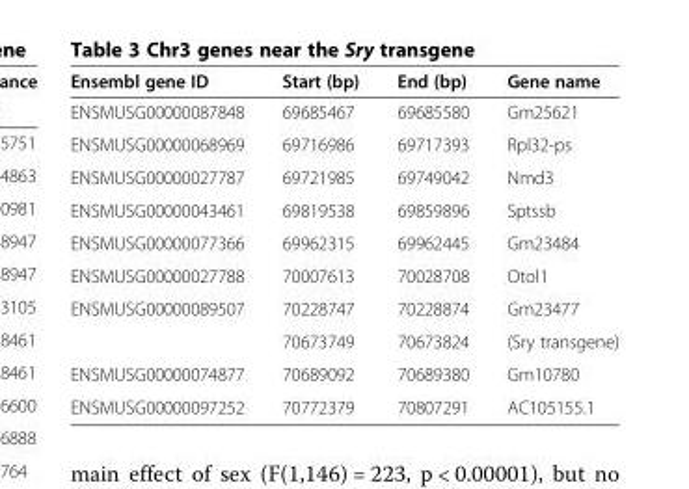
<table><thead><tr><td>Ensembl gene ID</td><td>Start (bp)</td><td>End (bp)</td><td>Gene name</td></tr></thead><tbody><tr><td>ENSMUSG00000087848</td><td>69685467</td><td>69685580</td><td>Gm25621</td></tr><tr><td>ENSMUSG00000068969</td><td>69716986</td><td>69717393</td><td>Rpl32-ps</td></tr><tr><td>ENSMUSG00000027787</td><td>69721985</td><td>69749042</td><td>Nmd3</td></tr><tr><td>ENSMUSG00000043461</td><td>69819538</td><td>69859896</td><td>Sptssb</td></tr><tr><td>ENSMUSG00000077366</td><td>69962315</td><td>69962445</td><td>Gm23484</td></tr><tr><td>ENSMUSG00000027788</td><td>70007613</td><td>70028708</td><td>Otol1</td></tr><tr><td rowspan="2">ENSMUSG00000089507</td><td>70228747</td><td>70228874</td><td>Gm23477</td></tr><tr><td>70673749</td><td>70673824</td><td>(Sry transgene)</td></tr><tr><td>ENSMUSG00000074877</td><td>70689092</td><td>70689380</td><td>Gm10780</td></tr><tr><td>ENSMUSG00000097252</td><td>70772379</td><td>70807291</td><td>AC105155.1</td></tr></tbody></table>